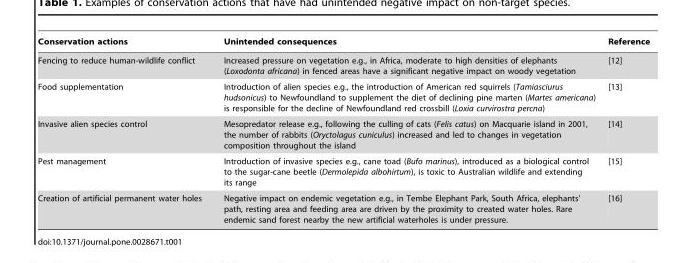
<table><thead><tr><td>Conservation actions</td><td>Unintended consequences</td><td>Reference</td></tr></thead><tbody><tr><td>Fencing to reduce human-wildlife conflict</td><td>Increased pressure on vegetation e.g., in Africa, moderate to high densities of elephants (Loxodonta africana) in fenced areas have a significant negative impact on woody vegetation</td><td>[12]</td></tr><tr><td>Food supplementation</td><td>Introduction of alien species e.g., the introduction of American red squirrels (Tamiasciurus hudsonicus) to Newfoundland to supplement the diet of declining pine marten (Martes americana) is responsible for the decline of Newfoundland red crossbill (Loxia curvirostra percna)</td><td>[13]</td></tr><tr><td>Invasive alien species control</td><td>Mesopredator release e.g., following the culling of cats (Felis catus) on Macquarie island in 2001, the number of rabbits (Oryctolagus cuniculus) increased and led to changes in vegetation composition throughout the island</td><td>[14]</td></tr><tr><td>Pest management</td><td>Introduction of invasive species e.g., cane toad (Bufo marinus), introduced as a biological control to the sugar-cane beetle (Dermolepida albohirtum), is toxic to Australian wildlife and extending its range</td><td>[15]</td></tr><tr><td>Creation of artificial permanent water holes</td><td>Negative impact on endemic vegetation e.g., in Tembe Elephant Park, South Africa, elephants’ path, resting area and feeding area are driven by the proximity to created water holes. Rare endemic sand forest nearby the new artificial waterholes is under pressure.</td><td>[16]</td></tr></tbody></table>